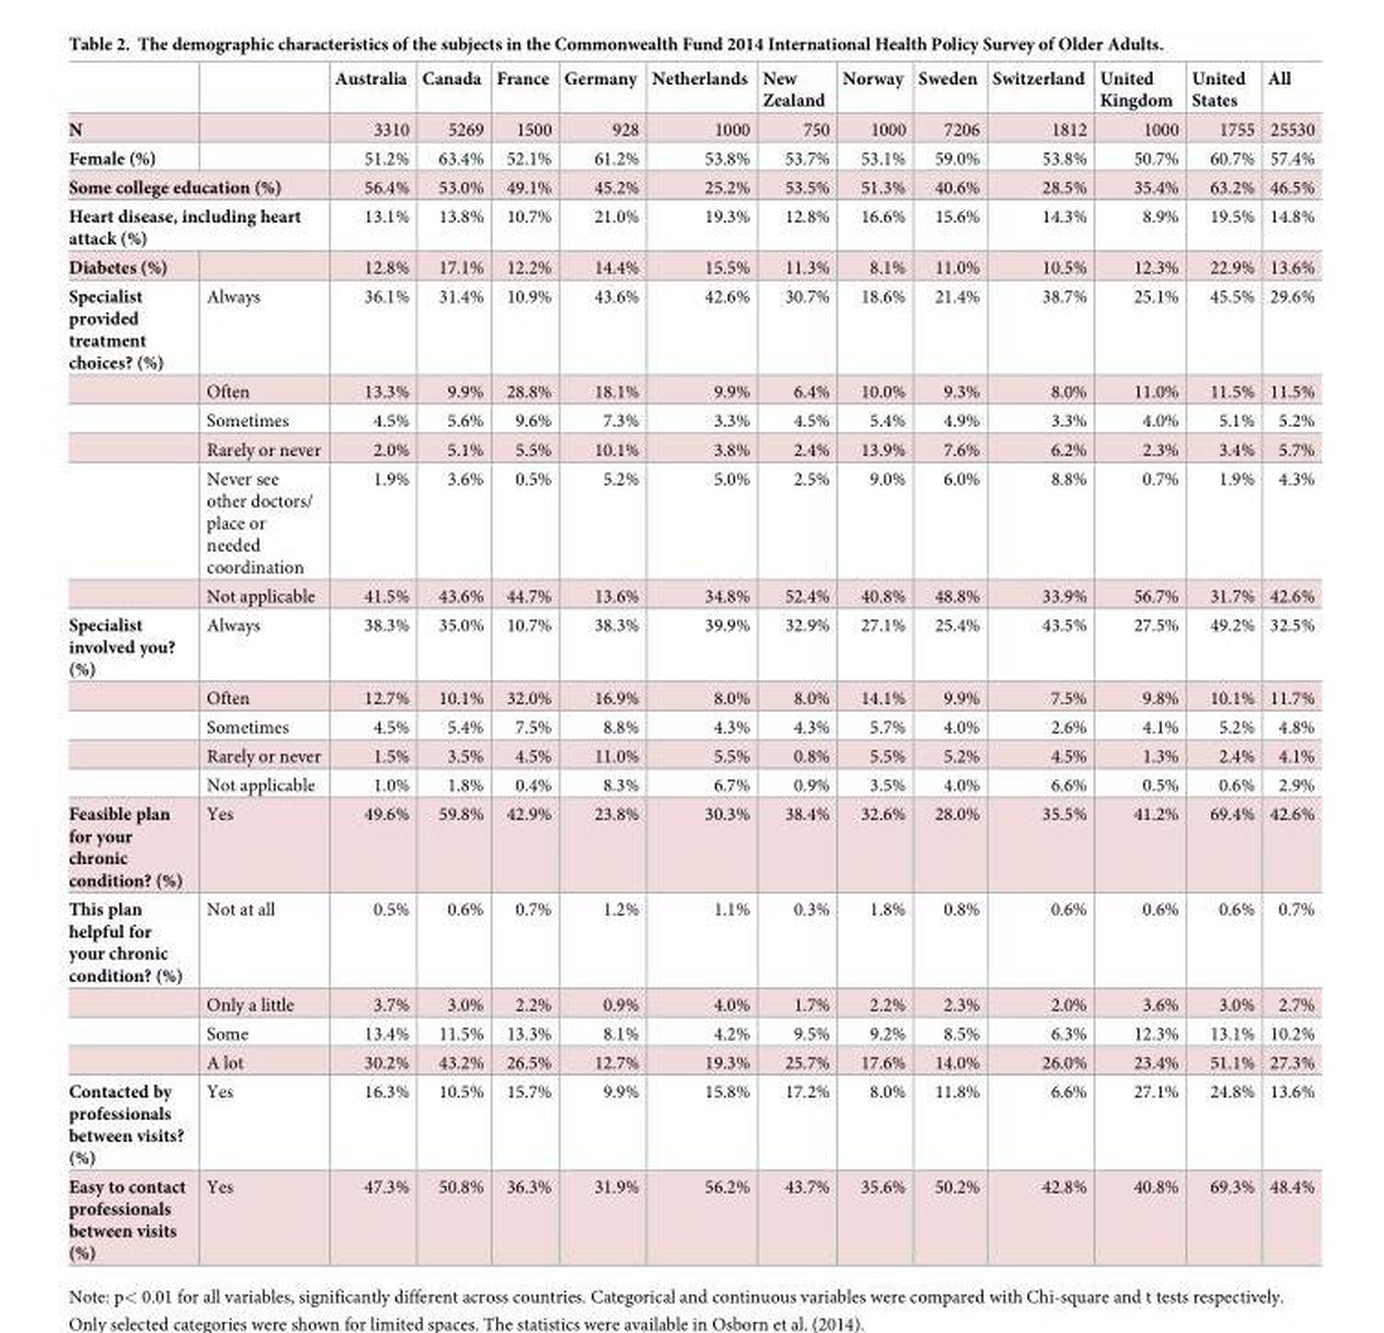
<table><thead><tr><td></td><td></td><td>Australia</td><td>Canada</td><td>France</td><td>Germany</td><td>Netherlands</td><td>New Zealand</td><td>Norway</td><td>Sweden</td><td>Switzerland</td><td>United Kingdom</td><td>United States</td><td>All</td></tr></thead><tbody><tr><td>N</td><td></td><td>3310</td><td>5269</td><td>1500</td><td>928</td><td>1000</td><td>750</td><td>1000</td><td>7206</td><td>1812</td><td>1000</td><td>1755</td><td>25530</td></tr><tr><td>Female (%)</td><td></td><td>51.2%</td><td>63.4%</td><td>52.1%</td><td>61.2%</td><td>53.8%</td><td>53.7%</td><td>53.1%</td><td>59.0%</td><td>53.8%</td><td>50.7%</td><td>60.7%</td><td>57.4%</td></tr><tr><td colspan="2">Some college education (%)</td><td>56.4%</td><td>53.0%</td><td>49.1%</td><td>45.2%</td><td>25.2%</td><td>53.5%</td><td>51.3%</td><td>40.6%</td><td>28.5%</td><td>35.4%</td><td>63.2%</td><td>46.5%</td></tr><tr><td colspan="2">Heart disease, including heart attack (%)</td><td>13.1%</td><td>13.8%</td><td>10.7%</td><td>21.0%</td><td>19.3%</td><td>12.8%</td><td>16.6%</td><td>15.6%</td><td>14.3%</td><td>8.9%</td><td>19.5%</td><td>14.8%</td></tr><tr><td>Diabetes (%)</td><td></td><td>12.8%</td><td>17.1%</td><td>12.2%</td><td>14.4%</td><td>15.5%</td><td>11.3%</td><td>8.1%</td><td>11.0%</td><td>10.5%</td><td>12.3%</td><td>22.9%</td><td>13.6%</td></tr><tr><td rowspan="6">Specialist provided treatment choices? (%)</td><td>Always</td><td>36.1%</td><td>31.4%</td><td>10.9%</td><td>43.6%</td><td>42.6%</td><td>30.7%</td><td>18.6%</td><td>21.4%</td><td>38.7%</td><td>25.1%</td><td>45.5%</td><td>29.6%</td></tr><tr><td>Often</td><td>13.3%</td><td>9.9%</td><td>28.8%</td><td>18.1%</td><td>9.9%</td><td>6.4%</td><td>10.0%</td><td>9.3%</td><td>8.0%</td><td>11.0%</td><td>11.5%</td><td>11.5%</td></tr><tr><td>Sometimes</td><td>4.5%</td><td>5.6%</td><td>9.6%</td><td>7.3%</td><td>3.3%</td><td>4.5%</td><td>5.4%</td><td>4.9%</td><td>3.3%</td><td>4.0%</td><td>5.1%</td><td>5.2%</td></tr><tr><td>Rarely or never</td><td>2.0%</td><td>5.1%</td><td>5.5%</td><td>10.1%</td><td>3.8%</td><td>2.4%</td><td>13.9%</td><td>7.6%</td><td>6.2%</td><td>2.3%</td><td>3.4%</td><td>5.7%</td></tr><tr><td>Never see other doctors/ place or needed coordination</td><td>1.9%</td><td>3.6%</td><td>0.5%</td><td>5.2%</td><td>5.0%</td><td>2.5%</td><td>9.0%</td><td>6.0%</td><td>8.8%</td><td>0.7%</td><td>1.9%</td><td>4.3%</td></tr><tr><td>Not applicable</td><td>41.5%</td><td>43.6%</td><td>44.7%</td><td>13.6%</td><td>34.8%</td><td>52.4%</td><td>40.8%</td><td>48.8%</td><td>33.9%</td><td>56.7%</td><td>31.7%</td><td>42.6%</td></tr><tr><td rowspan="5">Specialist involved you? (%)</td><td>Always</td><td>38.3%</td><td>35.0%</td><td>10.7%</td><td>38.3%</td><td>39.9%</td><td>32.9%</td><td>27.1%</td><td>25.4%</td><td>43.5%</td><td>27.5%</td><td>49.2%</td><td>32.5%</td></tr><tr><td>Often</td><td>12.7%</td><td>10.1%</td><td>32.0%</td><td>16.9%</td><td>8.0%</td><td>8.0%</td><td>14.1%</td><td>9.9%</td><td>7.5%</td><td>9.8%</td><td>10.1%</td><td>11.7%</td></tr><tr><td>Sometimes</td><td>4.5%</td><td>5.4%</td><td>7.5%</td><td>8.8%</td><td>4.3%</td><td>4.3%</td><td>5.7%</td><td>4.0%</td><td>2.6%</td><td>4.1%</td><td>5.2%</td><td>4.8%</td></tr><tr><td>Rarely or never</td><td>1.5%</td><td>3.5%</td><td>4.5%</td><td>11.0%</td><td>5.5%</td><td>0.8%</td><td>5.5%</td><td>5.2%</td><td>4.5%</td><td>1.3%</td><td>2.4%</td><td>4.1%</td></tr><tr><td>Not applicable</td><td>1.0%</td><td>1.8%</td><td>0.4%</td><td>8.3%</td><td>6.7%</td><td>0.9%</td><td>3.5%</td><td>4.0%</td><td>6.6%</td><td>0.5%</td><td>0.6%</td><td>2.9%</td></tr><tr><td>Feasible plan for your chronic condition? (%)</td><td>Yes</td><td>49.6%</td><td>59.8%</td><td>42.9%</td><td>23.8%</td><td>30.3%</td><td>38.4%</td><td>32.6%</td><td>28.0%</td><td>35.5%</td><td>41.2%</td><td>69.4%</td><td>42.6%</td></tr><tr><td rowspan="4">This plan helpful for your chronic condition? (%)</td><td>Not at all</td><td>0.5%</td><td>0.6%</td><td>0.7%</td><td>1.2%</td><td>1.1%</td><td>0.3%</td><td>1.8%</td><td>0.8%</td><td>0.6%</td><td>0.6%</td><td>0.6%</td><td>0.7%</td></tr><tr><td>Only a little</td><td>3.7%</td><td>3.0%</td><td>2.2%</td><td>0.9%</td><td>4.0%</td><td>1.7%</td><td>2.2%</td><td>2.3%</td><td>2.0%</td><td>3.6%</td><td>3.0%</td><td>2.7%</td></tr><tr><td>Some</td><td>13.4%</td><td>11.5%</td><td>13.3%</td><td>8.1%</td><td>4.2%</td><td>9.5%</td><td>9.2%</td><td>8.5%</td><td>6.3%</td><td>12.3%</td><td>13.1%</td><td>10.2%</td></tr><tr><td>A lot</td><td>30.2%</td><td>43.2%</td><td>26.5%</td><td>12.7%</td><td>19.3%</td><td>25.7%</td><td>17.6%</td><td>14.0%</td><td>26.0%</td><td>23.4%</td><td>51.1%</td><td>27.3%</td></tr><tr><td>Contacted by professionals between visits? (%)</td><td>Yes</td><td>16.3%</td><td>10.5%</td><td>15.7%</td><td>9.9%</td><td>15.8%</td><td>17.2%</td><td>8.0%</td><td>11.8%</td><td>6.6%</td><td>27.1%</td><td>24.8%</td><td>13.6%</td></tr><tr><td>Easy to contact professionals between visits (%)</td><td>Yes</td><td>47.3%</td><td>50.8%</td><td>36.3%</td><td>31.9%</td><td>56.2%</td><td>43.7%</td><td>35.6%</td><td>50.2%</td><td>42.8%</td><td>40.8%</td><td>69.3%</td><td>48.4%</td></tr></tbody></table>